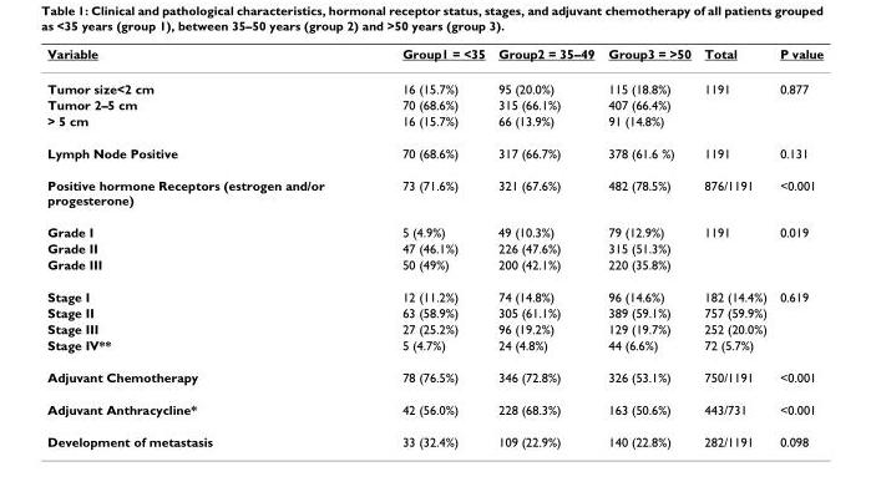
<table><thead><tr><td>Variable</td><td>Group1 = &lt;35</td><td>Group2 = 35–49</td><td>Group3 = &gt;50</td><td>Total</td><td>P value</td></tr></thead><tbody><tr><td>Tumor size&lt;2 cm</td><td>16 (15.7%)</td><td>95 (20.0%)</td><td>115 (18.8%)</td><td>1191</td><td>0.877</td></tr><tr><td>Tumor 2–5 cm</td><td>70 (68.6%)</td><td>315 (66.1%)</td><td>407 (66.4%)</td><td></td><td></td></tr><tr><td>&gt; 5 cm</td><td>16 (15.7%)</td><td>66 (13.9%)</td><td>91 (14.8%)</td><td></td><td></td></tr><tr><td>Lymph Node Positive</td><td>70 (68.6%)</td><td>317 (66.7%)</td><td>378 (61.6 %)</td><td>1191</td><td>0.131</td></tr><tr><td>Positive hormone Receptors (estrogen and/or progesterone)</td><td>73 (71.6%)</td><td>321 (67.6%)</td><td>482 (78.5%)</td><td>876/1191</td><td>&lt;0.001</td></tr><tr><td>Grade I</td><td>5 (4.9%)</td><td>49 (10.3%)</td><td>79 (12.9%)</td><td>1191</td><td>0.019</td></tr><tr><td>Grade II</td><td>47 (46.1%)</td><td>226 (47.6%)</td><td>315 (51.3%)</td><td></td><td></td></tr><tr><td>Grade III</td><td>50 (49%)</td><td>200 (42.1%)</td><td>220 (35.8%)</td><td></td><td></td></tr><tr><td>Stage I</td><td>12 (11.2%)</td><td>74 (14.8%)</td><td>96 (14.6%)</td><td>182 (14.4%)</td><td>0.619</td></tr><tr><td>Stage II</td><td>63 (58.9%)</td><td>305 (61.1%)</td><td>389 (59.1%)</td><td>757 (59.9%)</td><td></td></tr><tr><td>Stage III</td><td>27 (25.2%)</td><td>96 (19.2%)</td><td>129 (19.7%)</td><td>252 (20.0%)</td><td></td></tr><tr><td>Stage IV**</td><td>5 (4.7%)</td><td>24 (4.8%)</td><td>44 (6.6%)</td><td>72 (5.7%)</td><td></td></tr><tr><td>Adjuvant Chemotherapy</td><td>78 (76.5%)</td><td>346 (72.8%)</td><td>326 (53.1%)</td><td>750/1191</td><td>&lt;0.001</td></tr><tr><td>Adjuvant Anthracycline*</td><td>42 (56.0%)</td><td>228 (68.3%)</td><td>163 (50.6%)</td><td>443/731</td><td>&lt;0.001</td></tr><tr><td>Development of metastasis</td><td>33 (32.4%)</td><td>109 (22.9%)</td><td>140 (22.8%)</td><td>282/1191</td><td>0.098</td></tr></tbody></table>